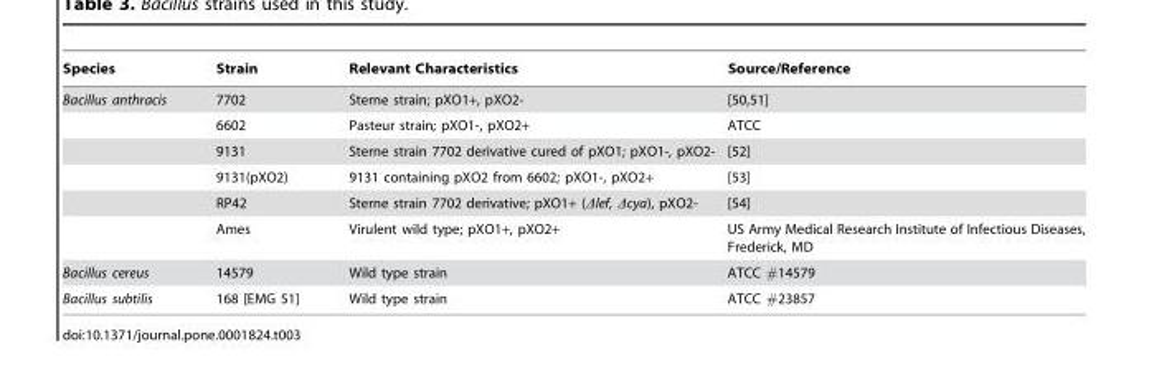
<table><thead><tr><td>Species</td><td>Strain</td><td>Relevant Characteristics</td><td>Source/Reference</td></tr></thead><tbody><tr><td rowspan="6">Bacillus anthracis</td><td>7702</td><td>Sterne strain; pXO1+, pXO2-</td><td>[50,51]</td></tr><tr><td>6602</td><td>Pasteur strain; pXO1-, pXO2+</td><td>ATCC</td></tr><tr><td>9131</td><td>Sterne strain 7702 derivative cured of pXO1; pXO1-, pXO2-</td><td>[52]</td></tr><tr><td>9131(pXO2)</td><td>9131 containing pXO2 from 6602; pXO1-, pXO2+</td><td>[53]</td></tr><tr><td>RP42</td><td>Sterne strain 7702 derivative; pXO1+ (Δlef, Δcya), pXO2-</td><td>[54]</td></tr><tr><td>Ames</td><td>Virulent wild type; pXO1+, pXO2+</td><td>US Army Medical Research Institute of Infectious Diseases, Frederick, MD</td></tr><tr><td>Bacillus cereus</td><td>14579</td><td>Wild type strain</td><td>ATCC #14579</td></tr><tr><td>Bacillus subtilis</td><td>168 [EMG 51]</td><td>Wild type strain</td><td>ATCC #23857</td></tr></tbody></table>